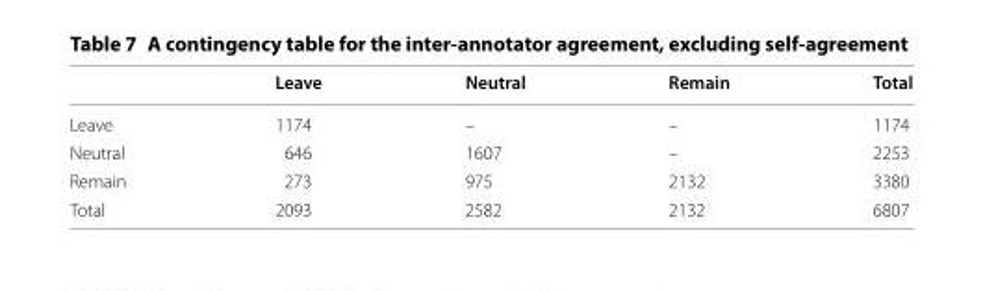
<table><thead><tr><td></td><td>Leave</td><td>Neutral</td><td>Remain</td><td>Total</td></tr></thead><tbody><tr><td>Leave</td><td>1174</td><td>–</td><td>–</td><td>1174</td></tr><tr><td>Neutral</td><td>646</td><td>1607</td><td>–</td><td>2253</td></tr><tr><td>Remain</td><td>273</td><td>975</td><td>2132</td><td>3380</td></tr><tr><td>Total</td><td>2093</td><td>2582</td><td>2132</td><td>6807</td></tr></tbody></table>